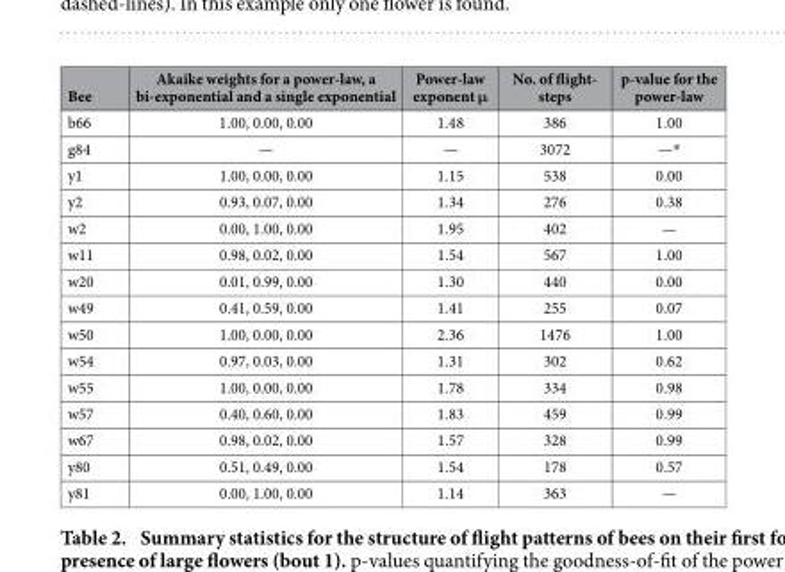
<table><thead><tr><td>Bee</td><td>Akaike weights for a power-law, a bi-exponential and a single exponential</td><td>Power-law exponent μ</td><td>No. of flight- steps</td><td>p-value for the power-law</td></tr></thead><tbody><tr><td>b66</td><td>1.00, 0.00, 0.00</td><td>1.48</td><td>386</td><td>1.00</td></tr><tr><td>g84</td><td>—</td><td>—</td><td>3072</td><td>—*</td></tr><tr><td>y1</td><td>1.00, 0.00, 0.00</td><td>1.15</td><td>538</td><td>0.00</td></tr><tr><td>y2</td><td>0.93, 0.07, 0.00</td><td>1.34</td><td>276</td><td>0.38</td></tr><tr><td>w2</td><td>0.00, 1.00, 0.00</td><td>1.95</td><td>402</td><td>—</td></tr><tr><td>w11</td><td>0.98, 0.02, 0.00</td><td>1.54</td><td>567</td><td>1.00</td></tr><tr><td>w20</td><td>0.01, 0.99, 0.00</td><td>1.30</td><td>440</td><td>0.00</td></tr><tr><td>w49</td><td>0.41, 0.59, 0.00</td><td>1.41</td><td>255</td><td>0.07</td></tr><tr><td>w50</td><td>1.00, 0.00, 0.00</td><td>2.36</td><td>1476</td><td>1.00</td></tr><tr><td>w54</td><td>0.97, 0.03, 0.00</td><td>1.31</td><td>302</td><td>0.62</td></tr><tr><td>w55</td><td>1.00, 0.00, 0.00</td><td>1.78</td><td>334</td><td>0.98</td></tr><tr><td>w57</td><td>0.40, 0.60, 0.00</td><td>1.83</td><td>459</td><td>0.99</td></tr><tr><td>w67</td><td>0.98, 0.02, 0.00</td><td>1.57</td><td>328</td><td>0.99</td></tr><tr><td>y80</td><td>0.51, 0.49, 0.00</td><td>1.54</td><td>178</td><td>0.57</td></tr><tr><td>y81</td><td>0.00, 1.00, 0.00</td><td>1.14</td><td>363</td><td>—</td></tr></tbody></table>